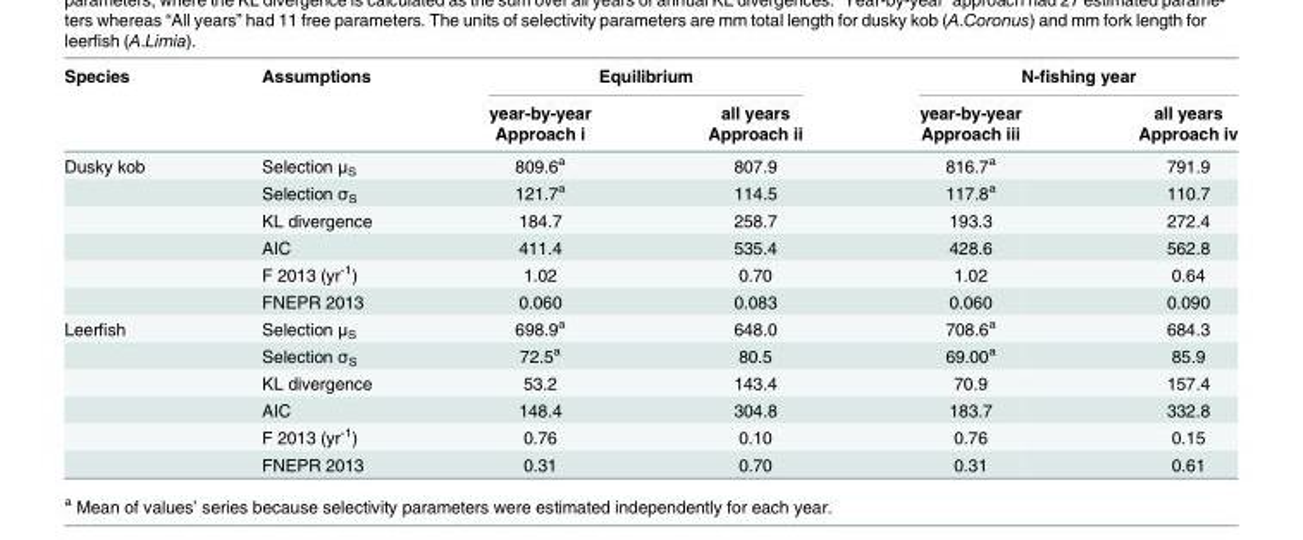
<table><thead><tr><td rowspan="3">Species</td><td rowspan="3">Assumptions</td><td colspan="2">Equilibrium</td><td colspan="2">N-fishing year</td></tr><tr><td rowspan="2">year-by-year Approach i</td><td rowspan="2">all years Approach ii</td><td rowspan="2">year-by-year Approach iii</td><td rowspan="2">all years Approach iv</td></tr><tr></tr></thead><tbody><tr><td rowspan="6">Dusky kob</td><td>Selection μ<sub>S</sub></td><td>809.6<sup>a</sup></td><td>807.9</td><td>816.7<sup>a</sup></td><td>791.9</td></tr><tr><td>Selection σ<sub>S</sub></td><td>121.7<sup>a</sup></td><td>114.5</td><td>117.8<sup>a</sup></td><td>110.7</td></tr><tr><td>KL divergence</td><td>184.7</td><td>258.7</td><td>193.3</td><td>272.4</td></tr><tr><td>AIC</td><td>411.4</td><td>535.4</td><td>428.6</td><td>562.8</td></tr><tr><td>F 2013 (yr<sup>-1</sup>)</td><td>1.02</td><td>0.70</td><td>1.02</td><td>0.64</td></tr><tr><td>FNEPR 2013</td><td>0.060</td><td>0.083</td><td>0.060</td><td>0.090</td></tr><tr><td rowspan="6">Leerfish</td><td>Selection μ<sub>S</sub></td><td>698.9<sup>a</sup></td><td>648.0</td><td>708.6<sup>a</sup></td><td>684.3</td></tr><tr><td>Selection σ<sub>S</sub></td><td>72.5<sup>a</sup></td><td>80.5</td><td>69.00<sup>a</sup></td><td>85.9</td></tr><tr><td>KL divergence</td><td>53.2</td><td>143.4</td><td>70.9</td><td>157.4</td></tr><tr><td>AIC</td><td>148.4</td><td>304.8</td><td>183.7</td><td>332.8</td></tr><tr><td>F 2013 (yr<sup>-1</sup>)</td><td>0.76</td><td>0.10</td><td>0.76</td><td>0.15</td></tr><tr><td>FNEPR 2013</td><td>0.31</td><td>0.70</td><td>0.31</td><td>0.61</td></tr></tbody></table>